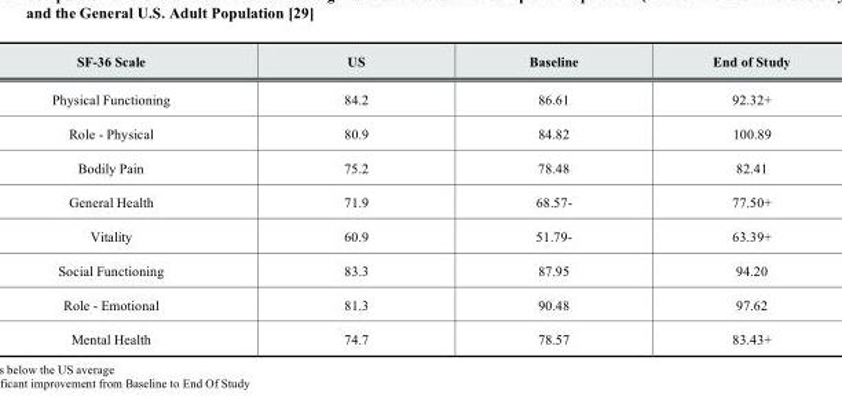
<table><thead><tr><td>SF-36 Scale</td><td>US</td><td>Baseline</td><td>End of Study</td></tr></thead><tbody><tr><td>Physical Functioning</td><td>84.2</td><td>86.61</td><td>92.32+</td></tr><tr><td>Role - Physical</td><td>80.9</td><td>84.82</td><td>100.89</td></tr><tr><td>Bodily Pain</td><td>75.2</td><td>78.48</td><td>82.41</td></tr><tr><td>General Health</td><td>71.9</td><td>68.57-</td><td>77.50+</td></tr><tr><td>Vitality</td><td>60.9</td><td>51.79-</td><td>63.39+</td></tr><tr><td>Social Functioning</td><td>83.3</td><td>87.95</td><td>94.20</td></tr><tr><td>Role - Emotional</td><td>81.3</td><td>90.48</td><td>97.62</td></tr><tr><td>Mental Health</td><td>74.7</td><td>78.57</td><td>83.43+</td></tr></tbody></table>